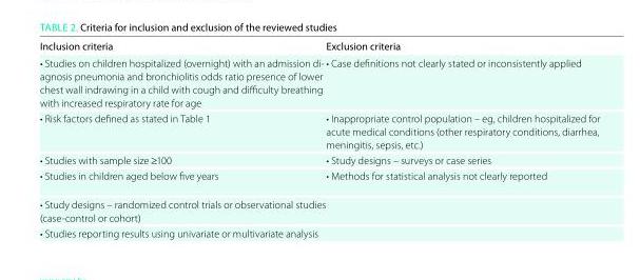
<table><thead><tr><td>Inclusion criteria</td><td>exclusion criteria</td></tr></thead><tbody><tr><td>• Studies on children hospitalized (overnight) with an admission di- agnosis pneumonia and bronchiolitis odds ratio presence of lower chest wall indrawing in a child with cough and difficulty breathing with increased respiratory rate for age</td><td>• Case definitions not clearly stated or inconsistently applied</td></tr><tr><td>• Risk factors defined as stated in Table 1</td><td>• Inappropriate control population – eg, children hospitalized for acute medical conditions (other respiratory conditions, diarrhea, meningitis, sepsis, etc.)</td></tr><tr><td>• Studies with sample size ≥100</td><td>• Study designs – surveys or case series</td></tr><tr><td>• Studies in children aged below five years</td><td>• Methods for statistical analysis not clearly reported</td></tr><tr><td colspan="2">• Study designs – randomized control trials or observational studies (case-control or cohort)</td></tr><tr><td>• Studies reporting results using univariate or multivariate analysis</td><td></td></tr></tbody></table>